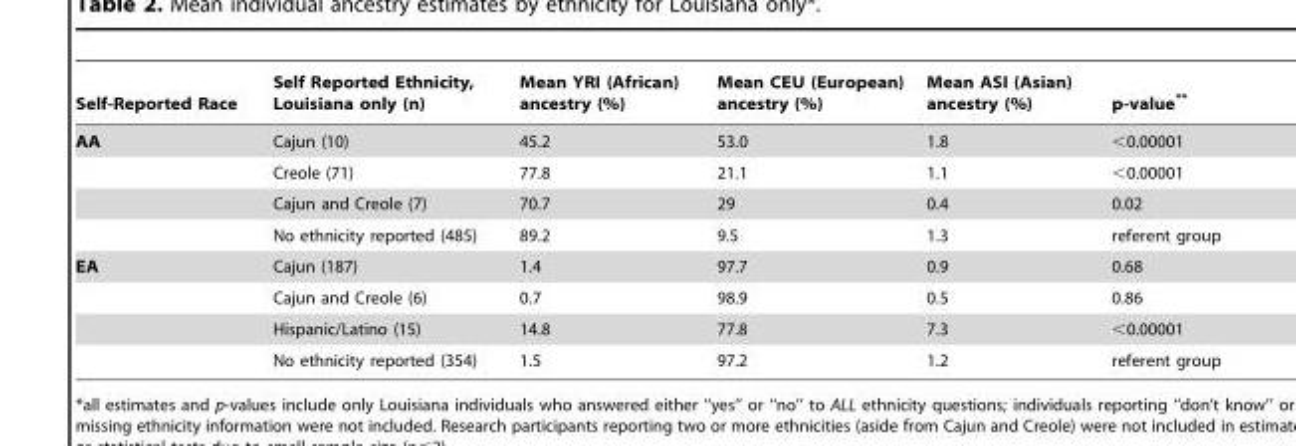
<table><thead><tr><td>Self-Reported Race</td><td>Self Reported Ethnicity, Louisiana only (n)</td><td>Mean YRI (African) ancestry (%)</td><td>Mean CEU (European) ancestry (%)</td><td>Mean ASI (Asian) ancestry (%)</td><td>p-value**</td></tr></thead><tbody><tr><td rowspan="4">AA</td><td>Cajun (10)</td><td>45.2</td><td>53.0</td><td>1.8</td><td>&lt;0.00001</td></tr><tr><td>Creole (71)</td><td>77.8</td><td>21.1</td><td>1.1</td><td>&lt;0.00001</td></tr><tr><td>Cajun and Creole (7)</td><td>70.7</td><td>29</td><td>0.4</td><td>0.02</td></tr><tr><td>No ethnicity reported (485)</td><td>89.2</td><td>9.5</td><td>1.3</td><td>referent group</td></tr><tr><td rowspan="4">EA</td><td>Cajun (187)</td><td>1.4</td><td>97.7</td><td>0.9</td><td>0.68</td></tr><tr><td>Cajun and Creole (6)</td><td>0.7</td><td>98.9</td><td>0.5</td><td>0.86</td></tr><tr><td>Hispanic/Latino (15)</td><td>14.8</td><td>77.8</td><td>7.3</td><td>&lt;0.00001</td></tr><tr><td>No ethnicity reported (354)</td><td>1.5</td><td>97.2</td><td>1.2</td><td>referent group</td></tr></tbody></table>